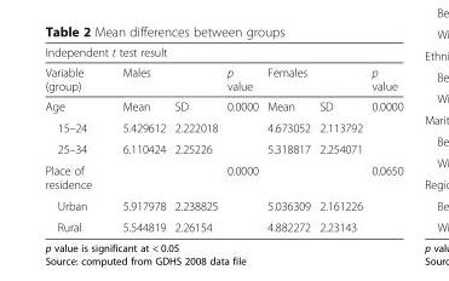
<table><thead><tr><td colspan="7">Independent t test result</td></tr><tr><td rowspan="2">Variable (group) Age</td><td colspan="2">Males</td><td rowspan="2">p value 0.0000</td><td colspan="2">Females</td><td rowspan="2">p value 0.0000</td></tr><tr><td>Mean</td><td>SD</td><td>Mean</td><td>SD</td></tr></thead><tbody><tr><td>15–24</td><td>5.429612</td><td>2.222018</td><td></td><td>4.673052</td><td>2.113792</td><td></td></tr><tr><td>25–34</td><td>6.110424</td><td>2.25226</td><td></td><td>5.318817</td><td>2.254071</td><td></td></tr><tr><td>Place of residence</td><td></td><td></td><td>0.0000</td><td></td><td></td><td>0.0650</td></tr><tr><td>Urban</td><td>5.917978</td><td>2.238825</td><td></td><td>5.036309</td><td>2.161226</td><td></td></tr><tr><td>Rural</td><td>5.544819</td><td>2.26154</td><td></td><td>4.882272</td><td>2.23143</td><td></td></tr></tbody></table>